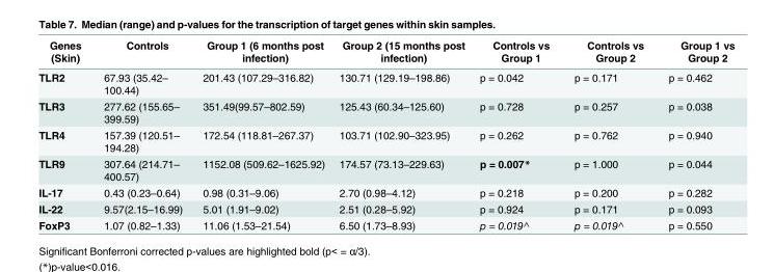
<table><thead><tr><td>Genes (Skin)</td><td>Controls</td><td>Group 1 (6 months post infection)</td><td>Group 2 (15 months post infection)</td><td>Controls vs Group 1</td><td>Controls vs Group 2</td><td>Group 1 vs Group 2</td></tr></thead><tbody><tr><td>TLR2</td><td>67.93 (35.42– 100.44)</td><td>201.43 (107.29–316.82)</td><td>130.71 (129.19–198.86)</td><td>p = 0.042</td><td>p = 0.171</td><td>p = 0.462</td></tr><tr><td>TLR3</td><td>277.62 (155.65– 399.59)</td><td>351.49(99.57–802.59)</td><td>125.43 (60.34–125.60)</td><td>p = 0.728</td><td>p = 0.257</td><td>p = 0.038</td></tr><tr><td>TLR4</td><td>157.39 (120.51– 194.28)</td><td>172.54 (118.81–267.37)</td><td>103.71 (102.90–323.95)</td><td>p = 0.262</td><td>p = 0.762</td><td>p = 0.940</td></tr><tr><td>TLR9</td><td>307.64 (214.71– 400.57)</td><td>1152.08 (509.62–1625.92)</td><td>174.57 (73.13–229.63)</td><td>p = 0.007*</td><td>p = 1.000</td><td>p = 0.044</td></tr><tr><td>IL-17</td><td>0.43 (0.23–0.64)</td><td>0.98 (0.31–9.06)</td><td>2.70 (0.98–4.12)</td><td>p = 0.218</td><td>p = 0.200</td><td>p = 0.282</td></tr><tr><td>IL-22</td><td>9.57(2.15–16.99)</td><td>5.01 (1.91–9.02)</td><td>2.51 (0.28–5.92)</td><td>p = 0.924</td><td>p = 0.171</td><td>p = 0.093</td></tr><tr><td>FoxP3</td><td>1.07 (0.82–1.33)</td><td>11.06 (1.53–21.54)</td><td>6.50 (1.73–8.93)</td><td>p = 0.019^</td><td>p = 0.019^</td><td>p = 0.550</td></tr></tbody></table>